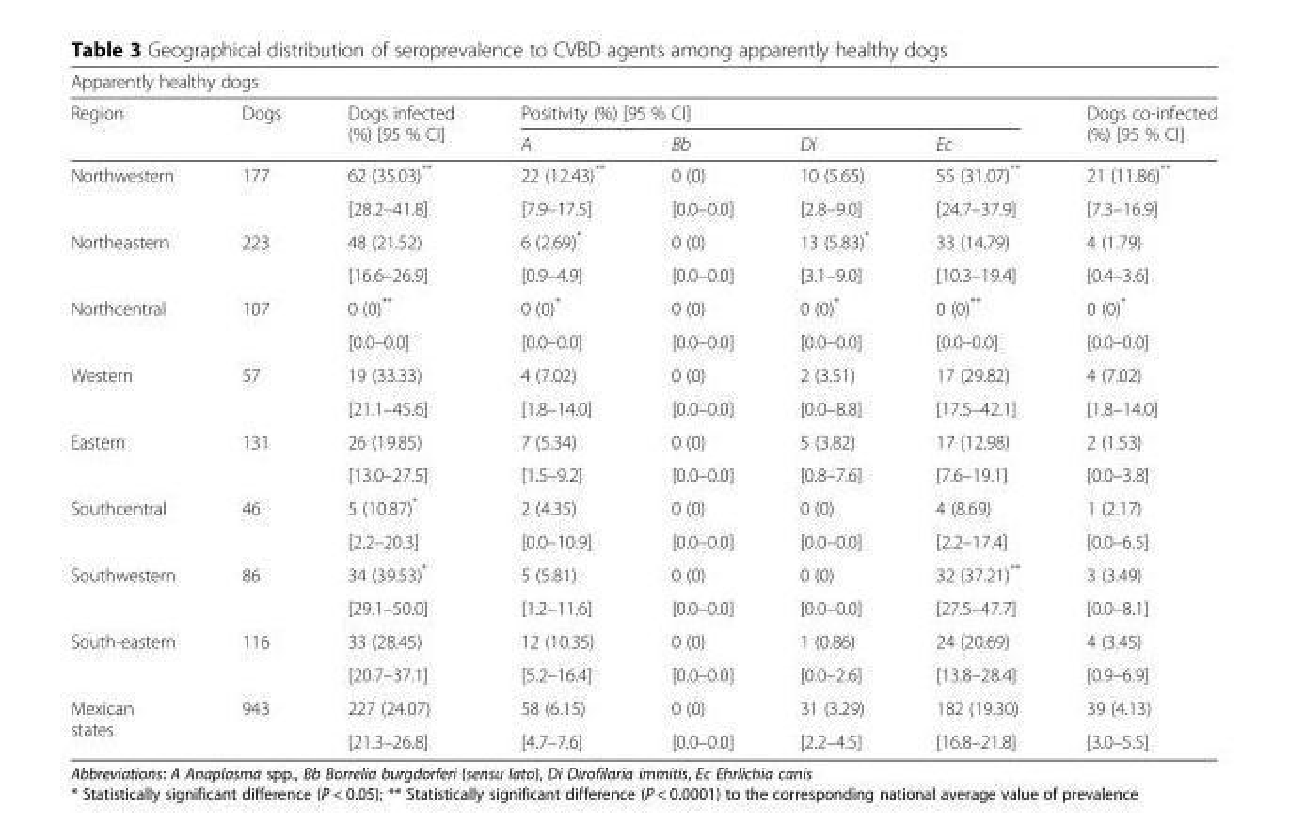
<table><thead><tr><td colspan="8">Apparently healthy dogs</td></tr><tr><td rowspan="2">Region</td><td rowspan="2">Dogs</td><td rowspan="2">Dogs infected (%) [95 % CI]</td><td colspan="4">Positivity (%) [95 % CI]</td><td rowspan="2">Dogs co-infected (%) [95 % CI]</td></tr><tr><td>A</td><td>Bb</td><td>Di</td><td>Ec</td></tr></thead><tbody><tr><td rowspan="2">Northwestern</td><td rowspan="2">177</td><td>62 (35.03)**</td><td>22 (12.43)**</td><td>0 (0)</td><td>10 (5.65)</td><td>55 (31.07)**</td><td>21 (11.86)**</td></tr><tr><td>[28.2–41.8]</td><td>[7.9–17.5]</td><td>[0.0–0.0]</td><td>[2.8–9.0]</td><td>[24.7–37.9]</td><td>[7.3–16.9]</td></tr><tr><td rowspan="2">Northeastern</td><td rowspan="2">223</td><td>48 (21.52)</td><td>6 (2.69)*</td><td>0 (0)</td><td>13 (5.83)*</td><td>33 (14.79)</td><td>4 (1.79)</td></tr><tr><td>[16.6–26.9]</td><td>[0.9–4.9]</td><td>[0.0–0.0]</td><td>[3.1–9.0]</td><td>[10.3–19.4]</td><td>[0.4–3.6]</td></tr><tr><td rowspan="2">Northcentral</td><td rowspan="2">107</td><td>0 (0)**</td><td>0 (0)*</td><td>0 (0)</td><td>0 (0)*</td><td>0 (0)**</td><td>0 (0)*</td></tr><tr><td>[0.0–0.0]</td><td>[0.0–0.0]</td><td>[0.0–0.0]</td><td>[0.0–0.0]</td><td>[0.0–0.0]</td><td>[0.0–0.0]</td></tr><tr><td rowspan="2">Western</td><td rowspan="2">57</td><td>19 (33.33)</td><td>4 (7.02)</td><td>0 (0)</td><td>2 (3.51)</td><td>17 (29.82)</td><td>4 (7.02)</td></tr><tr><td>[21.1–45.6]</td><td>[1.8–14.0]</td><td>[0.0–0.0]</td><td>[0.0–8.8]</td><td>[17.5–42.1]</td><td>[1.8–14.0]</td></tr><tr><td rowspan="2">Eastern</td><td rowspan="2">131</td><td>26 (19.85)</td><td>7 (5.34)</td><td>0 (0)</td><td>5 (3.82)</td><td>17 (12.98)</td><td>2 (1.53)</td></tr><tr><td>[13.0–27.5]</td><td>[1.5–9.2]</td><td>[0.0–0.0]</td><td>[0.8–7.6]</td><td>[7.6–19.1]</td><td>[0.0–3.8]</td></tr><tr><td rowspan="2">Southcentral</td><td rowspan="2">46</td><td>5 (10.87)*</td><td>2 (4.35)</td><td>0 (0)</td><td>0 (0)</td><td>4 (8.69)</td><td>1 (2.17)</td></tr><tr><td>[2.2–20.3]</td><td>[0.0–10.9]</td><td>[0.0–0.0]</td><td>[0.0–0.0]</td><td>[2.2–17.4]</td><td>[0.0–6.5]</td></tr><tr><td rowspan="2">Southwestern</td><td rowspan="2">86</td><td>34 (39.53)*</td><td>5 (5.81)</td><td>0 (0)</td><td>0 (0)</td><td>32 (37.21)**</td><td>3 (3.49)</td></tr><tr><td>[29.1–50.0]</td><td>[1.2–11.6]</td><td>[0.0–0.0]</td><td>[0.0–0.0]</td><td>[27.5–47.7]</td><td>[0.0–8.1]</td></tr><tr><td rowspan="2">South-eastern</td><td rowspan="2">116</td><td>33 (28.45)</td><td>12 (10.35)</td><td>0 (0)</td><td>1 (0.86)</td><td>24 (20.69)</td><td>4 (3.45)</td></tr><tr><td>[20.7–37.1]</td><td>[5.2–16.4]</td><td>[0.0–0.0]</td><td>[0.0–2.6]</td><td>[13.8–28.4]</td><td>[0.9–6.9]</td></tr><tr><td rowspan="2">Mexican states</td><td rowspan="2">943</td><td>227 (24.07)</td><td>58 (6.15)</td><td>0 (0)</td><td>31 (3.29)</td><td>182 (19.30)</td><td>39 (4.13)</td></tr><tr><td>[21.3–26.8]</td><td>[4.7–7.6]</td><td>[0.0–0.0]</td><td>[2.2–4.5]</td><td>[16.8–21.8]</td><td>[3.0–5.5]</td></tr></tbody></table>